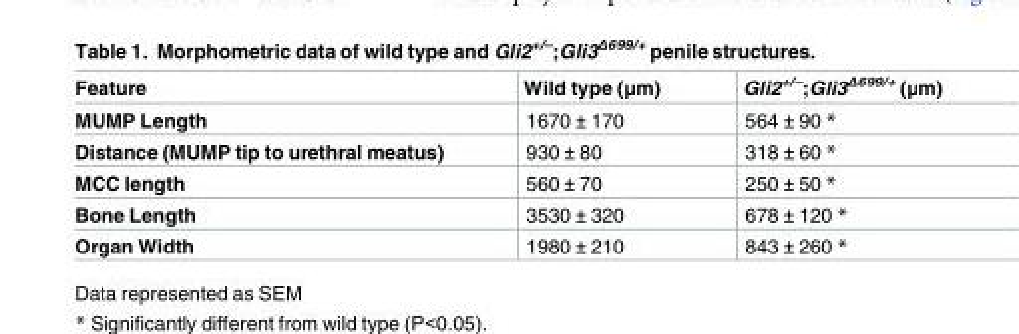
<table><thead><tr><td>Feature</td><td>Wild type (μm)</td><td>Gli2<sup>+/–</sup>;Gli3<sup>Δ699/+</sup> (μm)</td></tr></thead><tbody><tr><td>MUMP Length</td><td>1670 ± 170</td><td>564 ± 90 *</td></tr><tr><td>Distance (MUMP tip to urethral meatus)</td><td>930 ± 80</td><td>318 ± 60 *</td></tr><tr><td>MCC length</td><td>560 ± 70</td><td>250 ± 50 *</td></tr><tr><td>Bone Length</td><td>3530 ± 320</td><td>678 ± 120 *</td></tr><tr><td>Organ Width</td><td>1980 ± 210</td><td>843 ± 260 *</td></tr></tbody></table>